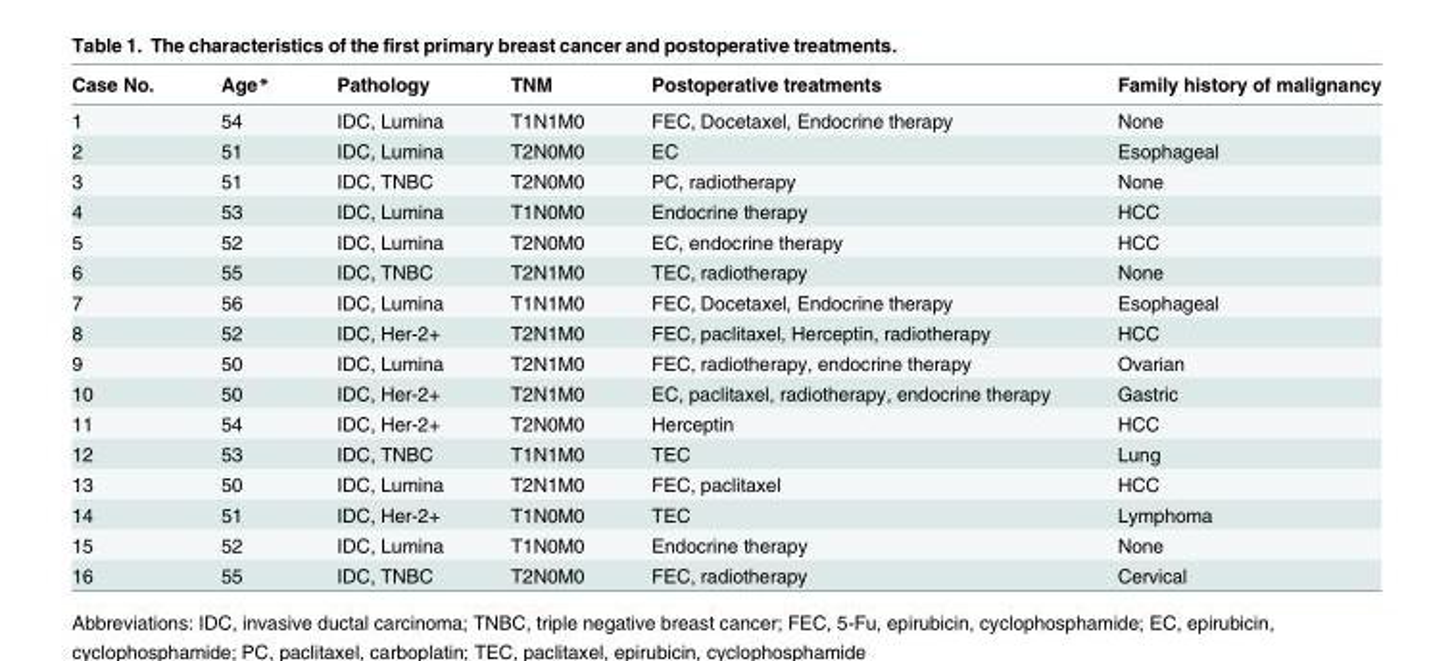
<table><thead><tr><td>Case No.</td><td>Age*</td><td>Pathology</td><td>TNM</td><td>Postoperative treatments</td><td>Family history of malignancy</td></tr></thead><tbody><tr><td>1</td><td>54</td><td>IDC, Lumina</td><td>T1N1M0</td><td>FEC, Docetaxel, Endocrine therapy</td><td>None</td></tr><tr><td>2</td><td>51</td><td>IDC, Lumina</td><td>T2N0M0</td><td>EC</td><td>Esophageal</td></tr><tr><td>3</td><td>51</td><td>IDC, TNBC</td><td>T2N0M0</td><td>PC, radiotherapy</td><td>None</td></tr><tr><td>4</td><td>53</td><td>IDC, Lumina</td><td>T1N0M0</td><td>Endocrine therapy</td><td>HCC</td></tr><tr><td>5</td><td>52</td><td>IDC, Lumina</td><td>T2N0M0</td><td>EC, endocrine therapy</td><td>HCC</td></tr><tr><td>6</td><td>55</td><td>IDC, TNBC</td><td>T2N1M0</td><td>TEC, radiotherapy</td><td>None</td></tr><tr><td>7</td><td>56</td><td>IDC, Lumina</td><td>T1N1M0</td><td>FEC, Docetaxel, Endocrine therapy</td><td>Esophageal</td></tr><tr><td>8</td><td>52</td><td>IDC, Her-2+</td><td>T2N1M0</td><td>FEC, paclitaxel, Herceptin, radiotherapy</td><td>HCC</td></tr><tr><td>9</td><td>50</td><td>IDC, Lumina</td><td>T2N1M0</td><td>FEC, radiotherapy, endocrine therapy</td><td>Ovarian</td></tr><tr><td>10</td><td>50</td><td>IDC, Her-2+</td><td>T2N1M0</td><td>EC, paclitaxel, radiotherapy, endocrine therapy</td><td>Gastric</td></tr><tr><td>11</td><td>54</td><td>IDC, Her-2+</td><td>T2N0M0</td><td>Herceptin</td><td>HCC</td></tr><tr><td>12</td><td>53</td><td>IDC, TNBC</td><td>T1N1M0</td><td>TEC</td><td>Lung</td></tr><tr><td>13</td><td>50</td><td>IDC, Lumina</td><td>T2N1M0</td><td>FEC, paclitaxel</td><td>HCC</td></tr><tr><td>14</td><td>51</td><td>IDC, Her-2+</td><td>T1N0M0</td><td>TEC</td><td>Lymphoma</td></tr><tr><td>15</td><td>52</td><td>IDC, Lumina</td><td>T1N0M0</td><td>Endocrine therapy</td><td>None</td></tr><tr><td>16</td><td>55</td><td>IDC, TNBC</td><td>T2N0M0</td><td>FEC, radiotherapy</td><td>Cervical</td></tr></tbody></table>